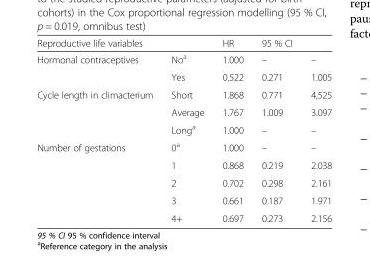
<table><thead><tr><td colspan="2">Reproductive life variables</td><td rowspan="2">HR 1.000</td><td rowspan="2">95 % CI –</td><td rowspan="2">–</td></tr><tr><td>Hormonal contraceptives</td><td>No<sup>a</sup></td></tr></thead><tbody><tr><td></td><td>Yes</td><td>0.522</td><td>0.271</td><td>1.005</td></tr><tr><td rowspan="3">Cycle length in climacterium</td><td>Short</td><td>1.868</td><td>0.771</td><td>4,525</td></tr><tr><td>Average</td><td>1.767</td><td>1.009</td><td>3.097</td></tr><tr><td>Long<sup>a</sup></td><td>1.000</td><td>–</td><td>–</td></tr><tr><td rowspan="5">Number of gestations</td><td>0<sup>a</sup></td><td>1.000</td><td>–</td><td>–</td></tr><tr><td>1</td><td>0.868</td><td>0.219</td><td>2.038</td></tr><tr><td>2</td><td>0.702</td><td>0.298</td><td>2.161</td></tr><tr><td>3</td><td>0.661</td><td>0.187</td><td>1.971</td></tr><tr><td>4+</td><td>0.697</td><td>0.273</td><td>2.156</td></tr></tbody></table>